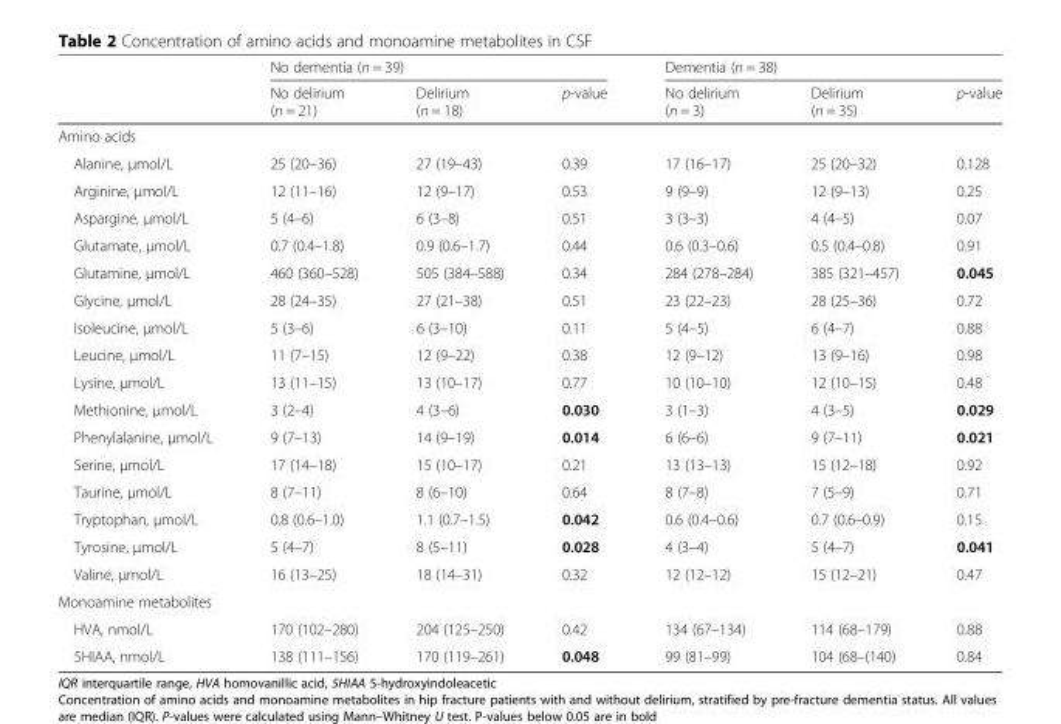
<table><thead><tr><td rowspan="2"></td><td colspan="3">No dementia (n = 39)</td><td colspan="3">Dementia (n = 38)</td></tr><tr><td>No delirium (n = 21)</td><td>Delirium (n = 18)</td><td>p-value</td><td>No delirium (n = 3)</td><td>Delirium (n = 35)</td><td>p-value</td></tr></thead><tbody><tr><td colspan="7">Amino acids</td></tr><tr><td>Alanine, μmol/L</td><td>25 (20–36)</td><td>27 (19–43)</td><td>0.39</td><td>17 (16–17)</td><td>25 (20–32)</td><td>0.128</td></tr><tr><td>Arginine, μmol/L</td><td>12 (11–16)</td><td>12 (9–17)</td><td>0.53</td><td>9 (9–9)</td><td>12 (9–13)</td><td>0.25</td></tr><tr><td>Aspargine, μmol/L</td><td>5 (4–6)</td><td>6 (3–8)</td><td>0.51</td><td>3 (3–3)</td><td>4 (4–5)</td><td>0.07</td></tr><tr><td>Glutamate, μmol/L</td><td>0.7 (0.4–1.8)</td><td>0.9 (0.6–1.7)</td><td>0.44</td><td>0.6 (0.3–0.6)</td><td>0.5 (0.4–0.8)</td><td>0.91</td></tr><tr><td>Glutamine, μmol/L</td><td>460 (360–528)</td><td>505 (384–588)</td><td>0.34</td><td>284 (278–284)</td><td>385 (321–457)</td><td>0.045</td></tr><tr><td>Glycine, μmol/L</td><td>28 (24–35)</td><td>27 (21–38)</td><td>0.51</td><td>23 (22–23)</td><td>28 (25–36)</td><td>0.72</td></tr><tr><td>Isoleucine, μmol/L</td><td>5 (3–6)</td><td>6 (3–10)</td><td>0.11</td><td>5 (4–5)</td><td>6 (4–7)</td><td>0.88</td></tr><tr><td>Leucine, μmol/L</td><td>11 (7–15)</td><td>12 (9–22)</td><td>0.38</td><td>12 (9–12)</td><td>13 (9–16)</td><td>0.98</td></tr><tr><td>Lysine, μmol/L</td><td>13 (11–15)</td><td>13 (10–17)</td><td>0.77</td><td>10 (10–10)</td><td>12 (10–15)</td><td>0.48</td></tr><tr><td>Methionine, μmol/L</td><td>3 (2–4)</td><td>4 (3–6)</td><td>0.030</td><td>3 (1–3)</td><td>4 (3–5)</td><td>0.029</td></tr><tr><td>Phenylalanine, μmol/L</td><td>9 (7–13)</td><td>14 (9–19)</td><td>0.014</td><td>6 (6–6)</td><td>9 (7–11)</td><td>0.021</td></tr><tr><td>Serine, μmol/L</td><td>17 (14–18)</td><td>15 (10–17)</td><td>0.21</td><td>13 (13–13)</td><td>15 (12–18)</td><td>0.92</td></tr><tr><td>Taurine, μmol/L</td><td>8 (7–11)</td><td>8 (6–10)</td><td>0.64</td><td>8 (7–8)</td><td>7 (5–9)</td><td>0.71</td></tr><tr><td>Tryptophan, μmol/L</td><td>0.8 (0.6–1.0)</td><td>1.1 (0.7–1.5)</td><td>0.042</td><td>0.6 (0.4–0.6)</td><td>0.7 (0.6–0.9)</td><td>0.15</td></tr><tr><td>Tyrosine, μmol/L</td><td>5 (4–7)</td><td>8 (5–11)</td><td>0.028</td><td>4 (3–4)</td><td>5 (4–7)</td><td>0.041</td></tr><tr><td>Valine, μmol/L</td><td>16 (13–25)</td><td>18 (14–31)</td><td>0.32</td><td>12 (12–12)</td><td>15 (12–21)</td><td>0.47</td></tr><tr><td colspan="7">Monoamine metabolites</td></tr><tr><td>HVA, nmol/L</td><td>170 (102–280)</td><td>204 (125–250)</td><td>0.42</td><td>134 (67–134)</td><td>114 (68–179)</td><td>0.88</td></tr><tr><td>5HIAA, nmol/L</td><td>138 (111–156)</td><td>170 (119–261)</td><td>0.048</td><td>99 (81–99)</td><td>104 (68–(140)</td><td>0.84</td></tr></tbody></table>